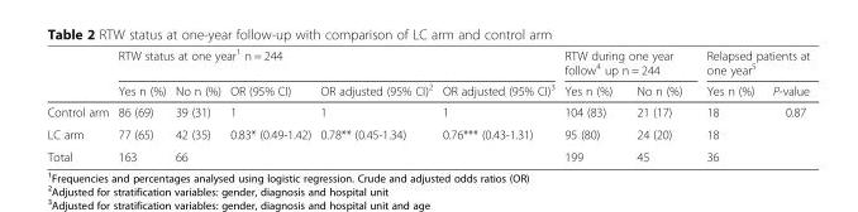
<table><thead><tr><td rowspan="2"></td><td colspan="5">RTW status at one year<sup>1</sup> n = 244</td><td colspan="2">RTW during one year follow<sup>4</sup> up n = 244</td><td colspan="2">Relapsed patients at one year<sup>5</sup></td></tr><tr><td>Yes n (%)</td><td>No n (%)</td><td>OR (95% CI)</td><td>OR adjusted (95% CI)<sup>2</sup></td><td>OR adjusted (95% CI)<sup>3</sup></td><td>Yes n (%)</td><td>No n (%)</td><td>Yes n (%)</td><td>P-value</td></tr></thead><tbody><tr><td>Control arm</td><td>86 (69)</td><td>39 (31)</td><td>1</td><td>1</td><td>1</td><td>104 (83)</td><td>21 (17)</td><td>18</td><td rowspan="2">0.87</td></tr><tr><td>LC arm</td><td>77 (65)</td><td>42 (35)</td><td>0.83* (0.49-1.42)</td><td>0.78** (0.45-1.34)</td><td>0.76*** (0.43-1.31)</td><td>95 (80)</td><td>24 (20)</td><td>18</td></tr><tr><td>Total</td><td>163</td><td>66</td><td></td><td></td><td></td><td>199</td><td>45</td><td>36</td><td></td></tr></tbody></table>